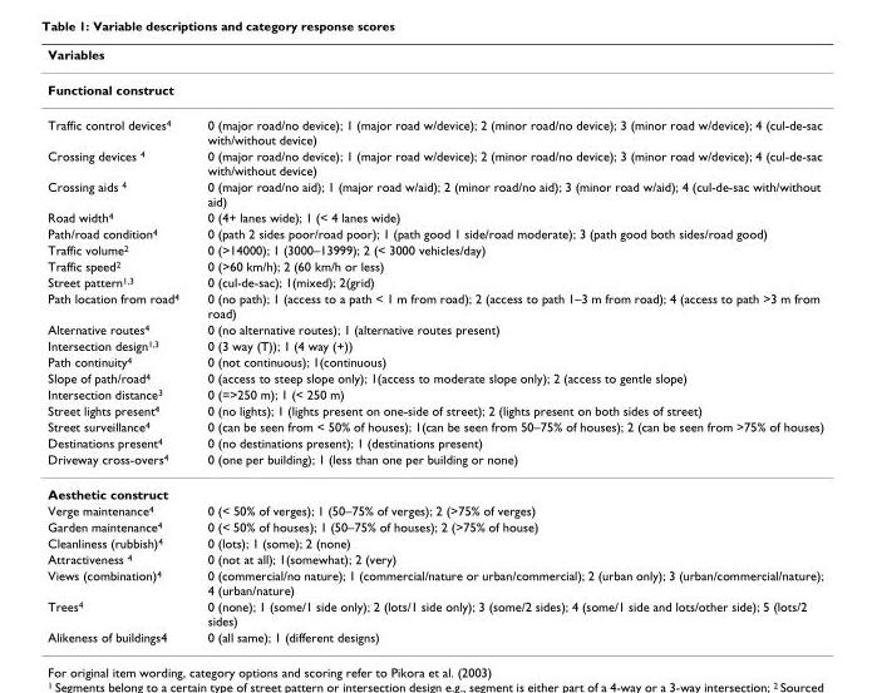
<table><thead><tr><td rowspan="2" colspan="2">Variables Functional construct</td></tr><tr></tr><tr><td>Traffic control devices<sup>4</sup></td><td>0 (major road/no device); 1 (major road w/device); 2 (minor road/no device); 3 (minor road w/device); 4 (cul-de-sac with/without device)</td></tr></thead><tbody><tr><td>Crossing devices <sup>4</sup></td><td>0 (major road/no device); 1 (major road w/device); 2 (minor road/no device); 3 (minor road w/device); 4 (cul-de-sac with/without device)</td></tr><tr><td>Crossing aids <sup>4</sup></td><td>0 (major road/no aid); 1 (major road w/aid); 2 (minor road/no aid); 3 (minor road w/aid); 4 (cul-de-sac with/without aid)</td></tr><tr><td>Road width<sup>4</sup></td><td>0 (4+ lanes wide); 1 (&lt; 4 lanes wide)</td></tr><tr><td>Path/road condition<sup>4</sup></td><td>0 (path 2 sides poor/road poor); 1 (path good 1 side/road moderate); 3 (path good both sides/road good)</td></tr><tr><td>Traffic volume<sup>2</sup></td><td>0 (&gt;14000); 1 (3000–13999); 2 (&lt; 3000 vehicles/day)</td></tr><tr><td>Traffic speed<sup>2</sup></td><td>0 (&gt;60 km/h); 2 (60 km/h or less)</td></tr><tr><td>Street pattern<sup>1,3</sup></td><td>0 (cul-de-sac); 1(mixed); 2(grid)</td></tr><tr><td>Path location from road<sup>4</sup></td><td>0 (no path); 1 (access to a path &lt; 1 m from road); 2 (access to path 1–3 m from road); 4 (access to path &gt;3 m from road)</td></tr><tr><td>Alternative routes<sup>4</sup></td><td>0 (no alternative routes); 1 (alternative routes present)</td></tr><tr><td>Intersection design<sup>1,3</sup></td><td>0 (3 way (T)); 1 (4 way (+))</td></tr><tr><td>Path continuity<sup>4</sup></td><td>0 (not continuous); 1(continuous)</td></tr><tr><td>Slope of path/road<sup>4</sup></td><td>0 (access to steep slope only); 1(access to moderate slope only); 2 (access to gentle slope)</td></tr><tr><td>Intersection distance<sup>3</sup></td><td>0 (=&gt;250 m); 1 (&lt; 250 m)</td></tr><tr><td>Street lights present<sup>4</sup></td><td>0 (no lights); 1 (lights present on one-side of street); 2 (lights present on both sides of street)</td></tr><tr><td>Street surveillance<sup>4</sup></td><td>0 (can be seen from &lt; 50% of houses); 1(can be seen from 50–75% of houses); 2 (can be seen from &gt;75% of houses)</td></tr><tr><td>Destinations present<sup>4</sup></td><td>0 (no destinations present); 1 (destinations present)</td></tr><tr><td>Driveway cross-overs<sup>4</sup></td><td>0 (one per building); 1 (less than one per building or none)</td></tr><tr><td colspan="2">Aesthetic construct</td></tr><tr><td>Verge maintenance<sup>4</sup></td><td>0 (&lt; 50% of verges); 1 (50–75% of verges); 2 (&gt;75% of verges)</td></tr><tr><td>Garden maintenance<sup>4</sup></td><td>0 (&lt; 50% of houses); 1 (50–75% of houses); 2 (&gt;75% of house)</td></tr><tr><td>Cleanliness (rubbish)<sup>4</sup></td><td>0 (lots); 1 (some); 2 (none)</td></tr><tr><td>Attractiveness <sup>4</sup></td><td>0 (not at all); 1(somewhat); 2 (very)</td></tr><tr><td>Views (combination)<sup>4</sup></td><td>0 (commercial/no nature); 1 (commercial/nature or urban/commercial); 2 (urban only); 3 (urban/commercial/nature); 4 (urban/nature)</td></tr><tr><td>Trees<sup>4</sup></td><td>0 (none); 1 (some/1 side only); 2 (lots/1 side only); 3 (some/2 sides); 4 (some/1 side and lots/other side); 5 (lots/2 sides)</td></tr><tr><td>Alikeness of buildings4</td><td>0 (all same); 1 (different designs)</td></tr></tbody></table>